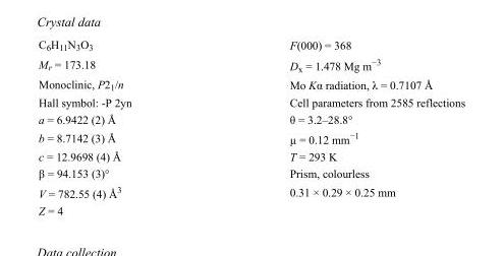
<table><tbody><tr><td>C<sub>6</sub>H<sub>11</sub>N<sub>3</sub>O<sub>3</sub></td><td>F(000) = 368</td></tr><tr><td>M<sub>r</sub> = 173.18</td><td>D<sub>x</sub> = 1.478 Mg m<sup>−3</sup></td></tr><tr><td>Monoclinic, P2<sub>1</sub>/n</td><td>Mo Kα radiation, λ = 0.7107 Å</td></tr><tr><td>Hall symbol: -P 2yn</td><td>Cell parameters from 2585 reflections</td></tr><tr><td>a = 6.9422 (2) Å</td><td>θ = 3.2–28.8°</td></tr><tr><td>b = 8.7142 (3) Å</td><td>µ = 0.12 mm<sup>−1</sup></td></tr><tr><td>c = 12.9698 (4) Å</td><td>T = 293 K</td></tr><tr><td>β = 94.153 (3)°</td><td>Prism, colourless</td></tr><tr><td>V = 782.55 (4) Å<sup>3</sup></td><td>0.31 × 0.29 × 0.25 mm</td></tr><tr><td>Z = 4</td><td></td></tr></tbody></table>